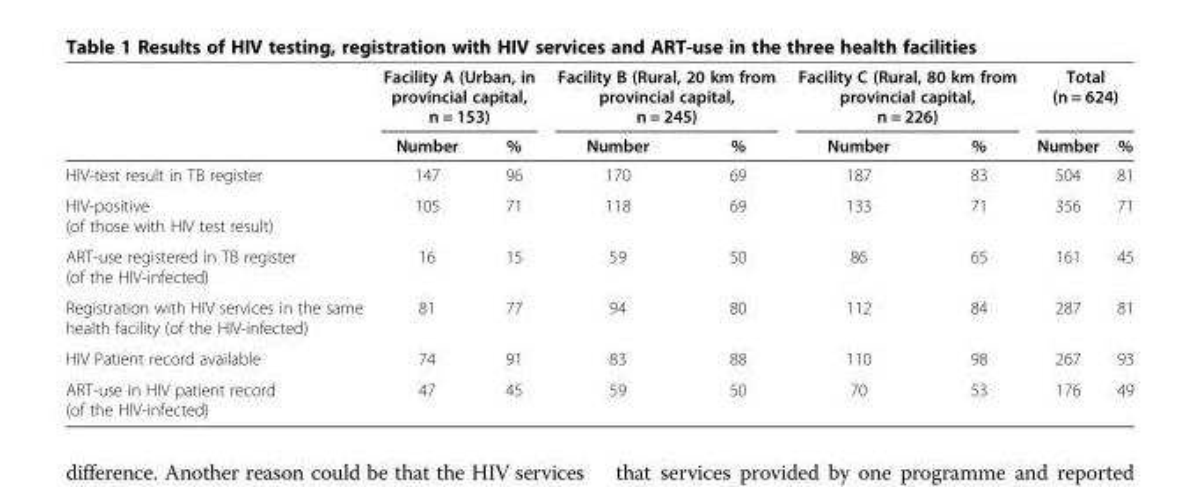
<table><thead><tr><td rowspan="2"></td><td colspan="2">Facility A (Urban, in provincial capital, n = 153)</td><td colspan="2">Facility B (Rural, 20 km from provincial capital, n = 245)</td><td colspan="2">Facility C (Rural, 80 km from provincial capital, n = 226)</td><td colspan="2">Total (n = 624)</td></tr><tr><td>Number</td><td>%</td><td>Number</td><td>%</td><td>Number</td><td>%</td><td>Number</td><td>%</td></tr></thead><tbody><tr><td>HIV-test result in TB register</td><td>147</td><td>96</td><td>170</td><td>69</td><td>187</td><td>83</td><td>504</td><td>81</td></tr><tr><td>HIV-positive (of those with HIV test result)</td><td>105</td><td>71</td><td>118</td><td>69</td><td>133</td><td>71</td><td>356</td><td>71</td></tr><tr><td>ART-use registered in TB register (of the HIV-infected)</td><td>16</td><td>15</td><td>59</td><td>50</td><td>86</td><td>65</td><td>161</td><td>45</td></tr><tr><td>Registration with HIV services in the same health facility (of the HIV-infected)</td><td>81</td><td>77</td><td>94</td><td>80</td><td>112</td><td>84</td><td>287</td><td>81</td></tr><tr><td>HIV Patient record available</td><td>74</td><td>91</td><td>83</td><td>88</td><td>110</td><td>98</td><td>267</td><td>93</td></tr><tr><td>ART-use in HIV patient record (of the HIV-infected)</td><td>47</td><td>45</td><td>59</td><td>50</td><td>70</td><td>53</td><td>176</td><td>49</td></tr></tbody></table>